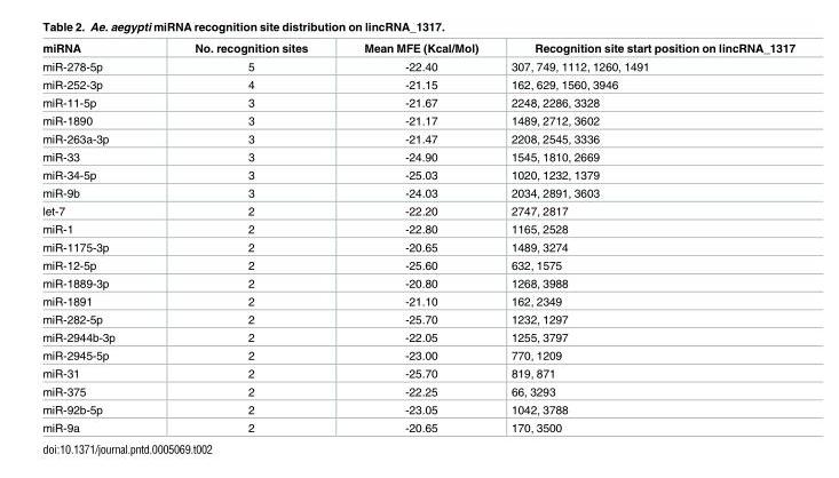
<table><thead><tr><td>miRNA</td><td>No. recognition sites</td><td>Mean MFE (Kcal/Mol)</td><td>Recognition site start position on lincRNA_1317</td></tr></thead><tbody><tr><td>miR-278-5p</td><td>5</td><td>-22.40</td><td>307, 749, 1112, 1260, 1491</td></tr><tr><td>miR-252-3p</td><td>4</td><td>-21.15</td><td>162, 629, 1560, 3946</td></tr><tr><td>miR-11-5p</td><td>3</td><td>-21.67</td><td>2248, 2286, 3328</td></tr><tr><td>miR-1890</td><td>3</td><td>-21.17</td><td>1489, 2712, 3602</td></tr><tr><td>miR-263a-3p</td><td>3</td><td>-21.47</td><td>2208, 2545, 3336</td></tr><tr><td>miR-33</td><td>3</td><td>-24.90</td><td>1545, 1810, 2669</td></tr><tr><td>miR-34-5p</td><td>3</td><td>-25.03</td><td>1020, 1232, 1379</td></tr><tr><td>miR-9b</td><td>3</td><td>-24.03</td><td>2034, 2891, 3603</td></tr><tr><td>let-7</td><td>2</td><td>-22.20</td><td>2747, 2817</td></tr><tr><td>miR-1</td><td>2</td><td>-22.80</td><td>1165, 2528</td></tr><tr><td>miR-1175-3p</td><td>2</td><td>-20.65</td><td>1489, 3274</td></tr><tr><td>miR-12-5p</td><td>2</td><td>-25.60</td><td>632, 1575</td></tr><tr><td>miR-1889-3p</td><td>2</td><td>-20.80</td><td>1268, 3988</td></tr><tr><td>miR-1891</td><td>2</td><td>-21.10</td><td>162, 2349</td></tr><tr><td>miR-282-5p</td><td>2</td><td>-25.70</td><td>1232, 1297</td></tr><tr><td>miR-2944b-3p</td><td>2</td><td>-22.05</td><td>1255, 3797</td></tr><tr><td>miR-2945-5p</td><td>2</td><td>-23.00</td><td>770, 1209</td></tr><tr><td>miR-31</td><td>2</td><td>-25.70</td><td>819, 871</td></tr><tr><td>miR-375</td><td>2</td><td>-22.25</td><td>66, 3293</td></tr><tr><td>miR-92b-5p</td><td>2</td><td>-23.05</td><td>1042, 3788</td></tr><tr><td>miR-9a</td><td>2</td><td>-20.65</td><td>170, 3500</td></tr></tbody></table>